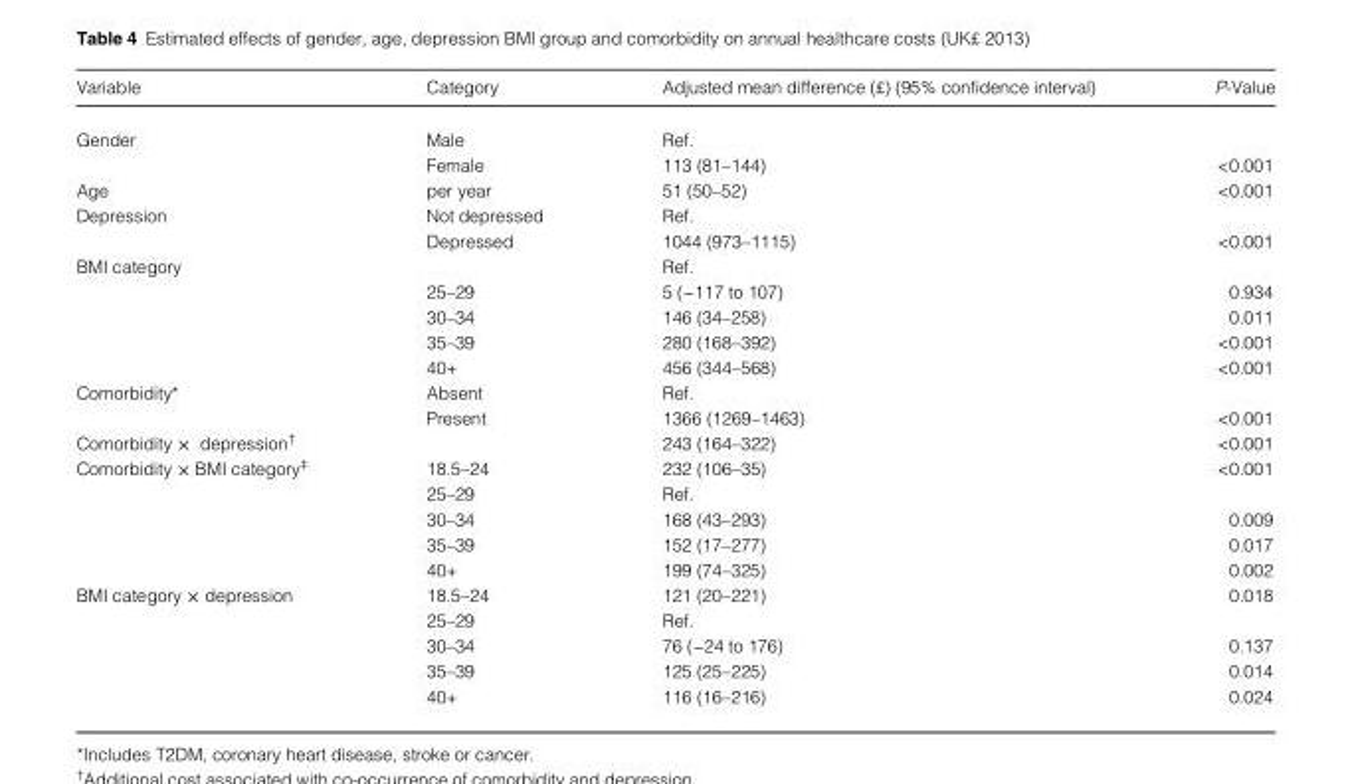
<table><thead><tr><td>Variable</td><td>Category</td><td>Adjusted mean difference (£) (95% confidence interval)</td><td>P-Value</td></tr></thead><tbody><tr><td rowspan="2">Gender</td><td>Male</td><td>Ref.</td><td></td></tr><tr><td>Female</td><td>113 (81–144)</td><td>&lt;0.001</td></tr><tr><td>Age</td><td>per year</td><td>51 (50–52)</td><td>&lt;0.001</td></tr><tr><td rowspan="2">Depression</td><td>Not depressed</td><td>Ref.</td><td></td></tr><tr><td>Depressed</td><td>1044 (973–1115)</td><td>&lt;0.001</td></tr><tr><td rowspan="5">BMI category</td><td></td><td>Ref.</td><td></td></tr><tr><td>25–29</td><td>5 (−117 to 107)</td><td>0.934</td></tr><tr><td>30–34</td><td>146 (34–258)</td><td>0.011</td></tr><tr><td>35–39</td><td>280 (168–392)</td><td>&lt;0.001</td></tr><tr><td>40+</td><td>456 (344–568)</td><td>&lt;0.001</td></tr><tr><td rowspan="2">Comorbidity*</td><td>Absent</td><td>Ref.</td><td></td></tr><tr><td>Present</td><td>1366 (1269–1463)</td><td>&lt;0.001</td></tr><tr><td>Comorbidity × depression†</td><td></td><td>243 (164–322)</td><td>&lt;0.001</td></tr><tr><td rowspan="5">Comorbidity × BMI category‡</td><td>18.5–24</td><td>232 (106–35)</td><td>&lt;0.001</td></tr><tr><td>25–29</td><td>Ref.</td><td></td></tr><tr><td>30–34</td><td>168 (43–293)</td><td>0.009</td></tr><tr><td>35–39</td><td>152 (17–277)</td><td>0.017</td></tr><tr><td>40+</td><td>199 (74–325)</td><td>0.002</td></tr><tr><td rowspan="5">BMI category × depression</td><td>18.5–24</td><td>121 (20–221)</td><td>0.018</td></tr><tr><td>25–29</td><td>Ref.</td><td></td></tr><tr><td>30–34</td><td>76 (−24 to 176)</td><td>0.137</td></tr><tr><td>35–39</td><td>125 (25–225)</td><td>0.014</td></tr><tr><td>40+</td><td>116 (16–216)</td><td>0.024</td></tr></tbody></table>